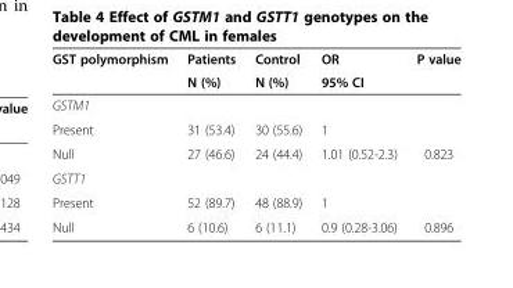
<table><thead><tr><td rowspan="2">GST polymorphism</td><td rowspan="2">Patients N (%)</td><td rowspan="2">Control N (%)</td><td rowspan="2">OR 95% CI</td><td rowspan="2">P value</td></tr><tr></tr></thead><tbody><tr><td colspan="5">GSTM1</td></tr><tr><td>Present</td><td>31 (53.4)</td><td>30 (55.6)</td><td>1</td><td></td></tr><tr><td>Null</td><td>27 (46.6)</td><td>24 (44.4)</td><td>1.01 (0.52-2.3)</td><td>0.823</td></tr><tr><td colspan="5">GSTT1</td></tr><tr><td>Present</td><td>52 (89.7)</td><td>48 (88.9)</td><td>1</td><td></td></tr><tr><td>Null</td><td>6 (10.6)</td><td>6 (11.1)</td><td>0.9 (0.28-3.06)</td><td>0.896</td></tr></tbody></table>